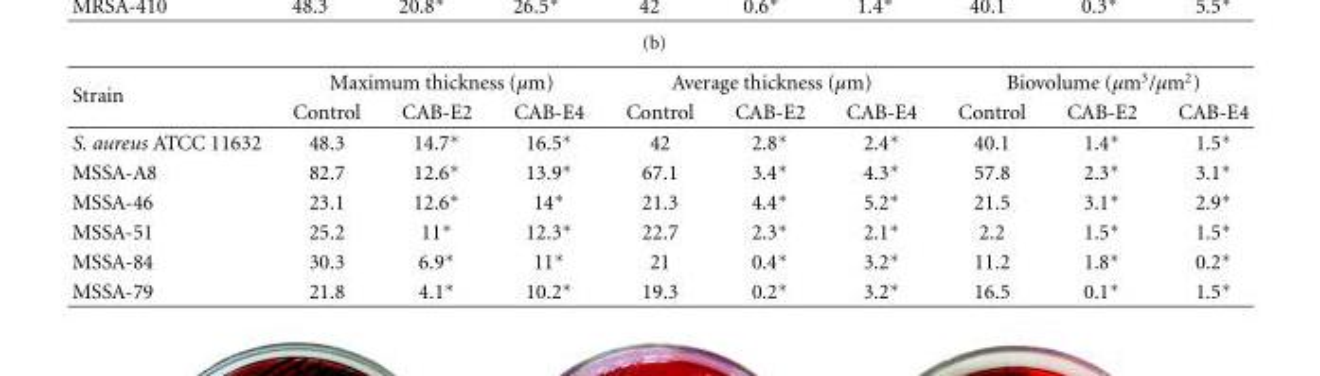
<table><thead><tr><td rowspan="2">Strain</td><td colspan="3">Maximum thickness (µm)</td><td colspan="3">Average thickness (µm)</td><td colspan="3">Biovolume (µm<sup>3</sup>/µm<sup>2</sup>)</td></tr><tr><td>Control</td><td>CAB-E2</td><td>CAB-E4</td><td>Control</td><td>CAB-E2</td><td>CAB-E4</td><td>Control</td><td>CAB-E2</td><td>CAB-E4</td></tr></thead><tbody><tr><td>S. aureus ATCC 11632</td><td>48.3</td><td>14.7∗</td><td>16.5∗</td><td>42</td><td>2.8∗</td><td>2.4∗</td><td>40.1</td><td>1.4∗</td><td>1.5∗</td></tr><tr><td>MSSA-A8</td><td>82.7</td><td>12.6∗</td><td>13.9∗</td><td>67.1</td><td>3.4∗</td><td>4.3∗</td><td>57.8</td><td>2.3∗</td><td>3.1∗</td></tr><tr><td>MSSA-46</td><td>23.1</td><td>12.6∗</td><td>14∗</td><td>21.3</td><td>4.4∗</td><td>5.2∗</td><td>21.5</td><td>3.1∗</td><td>2.9∗</td></tr><tr><td>MSSA-51</td><td>25.2</td><td>11∗</td><td>12.3∗</td><td>22.7</td><td>2.3∗</td><td>2.1∗</td><td>2.2</td><td>1.5∗</td><td>1.5∗</td></tr><tr><td>MSSA-84</td><td>30.3</td><td>6.9∗</td><td>11∗</td><td>21</td><td>0.4∗</td><td>3.2∗</td><td>11.2</td><td>1.8∗</td><td>0.2∗</td></tr><tr><td>MSSA-79</td><td>21.8</td><td>4.1∗</td><td>10.2∗</td><td>19.3</td><td>0.2∗</td><td>3.2∗</td><td>16.5</td><td>0.1∗</td><td>1.5∗</td></tr></tbody></table>